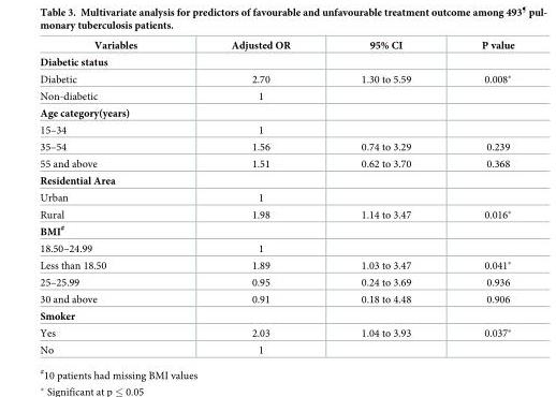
<table><thead><tr><td>Variables</td><td>Adjusted OR</td><td>95% CI</td><td>P value</td></tr></thead><tbody><tr><td colspan="4">Diabetic status</td></tr><tr><td>Diabetic</td><td>2.70</td><td>1.30 to 5.59</td><td>0.008*</td></tr><tr><td>Non-diabetic</td><td>1</td><td></td><td></td></tr><tr><td colspan="4">Age category(years)</td></tr><tr><td>15–34</td><td>1</td><td></td><td></td></tr><tr><td>35–54</td><td>1.56</td><td>0.74 to 3.29</td><td>0.239</td></tr><tr><td>55 and above</td><td>1.51</td><td>0.62 to 3.70</td><td>0.368</td></tr><tr><td colspan="4">Residential Area</td></tr><tr><td>Urban</td><td>1</td><td></td><td></td></tr><tr><td>Rural</td><td>1.98</td><td>1.14 to 3.47</td><td>0.016*</td></tr><tr><td colspan="4">BMI<sup>#</sup></td></tr><tr><td>18.50–24.99</td><td>1</td><td></td><td></td></tr><tr><td>Less than 18.50</td><td>1.89</td><td>1.03 to 3.47</td><td>0.041*</td></tr><tr><td>25–25.99</td><td>0.95</td><td>0.24 to 3.69</td><td>0.936</td></tr><tr><td>30 and above</td><td>0.91</td><td>0.18 to 4.48</td><td>0.906</td></tr><tr><td colspan="4">Smoker</td></tr><tr><td>Yes</td><td>2.03</td><td>1.04 to 3.93</td><td>0.037*</td></tr><tr><td>No</td><td>1</td><td></td><td></td></tr></tbody></table>